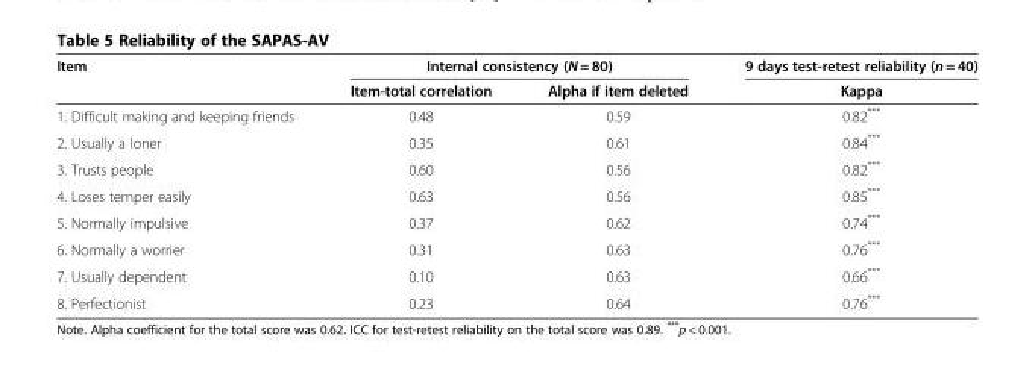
<table><thead><tr><td rowspan="2">Item</td><td colspan="2">Internal consistency (N = 80)</td><td rowspan="2">9 days test-retest reliability (n = 40) Kappa</td></tr><tr><td>Item-total correlation</td><td>Alpha if item deleted</td></tr></thead><tbody><tr><td>1. Difficult making and keeping friends</td><td>0.48</td><td>0.59</td><td>0.82***</td></tr><tr><td>2. Usually a loner</td><td>0.35</td><td>0.61</td><td>0.84***</td></tr><tr><td>3. Trusts people</td><td>0.60</td><td>0.56</td><td>0.82***</td></tr><tr><td>4. Loses temper easily</td><td>0.63</td><td>0.56</td><td>0.85***</td></tr><tr><td>5. Normally impulsive</td><td>0.37</td><td>0.62</td><td>0.74***</td></tr><tr><td>6. Normally a worrier</td><td>0.31</td><td>0.63</td><td>0.76***</td></tr><tr><td>7. Usually dependent</td><td>0.10</td><td>0.63</td><td>0.66***</td></tr><tr><td>8. Perfectionist</td><td>0.23</td><td>0.64</td><td>0.76***</td></tr></tbody></table>